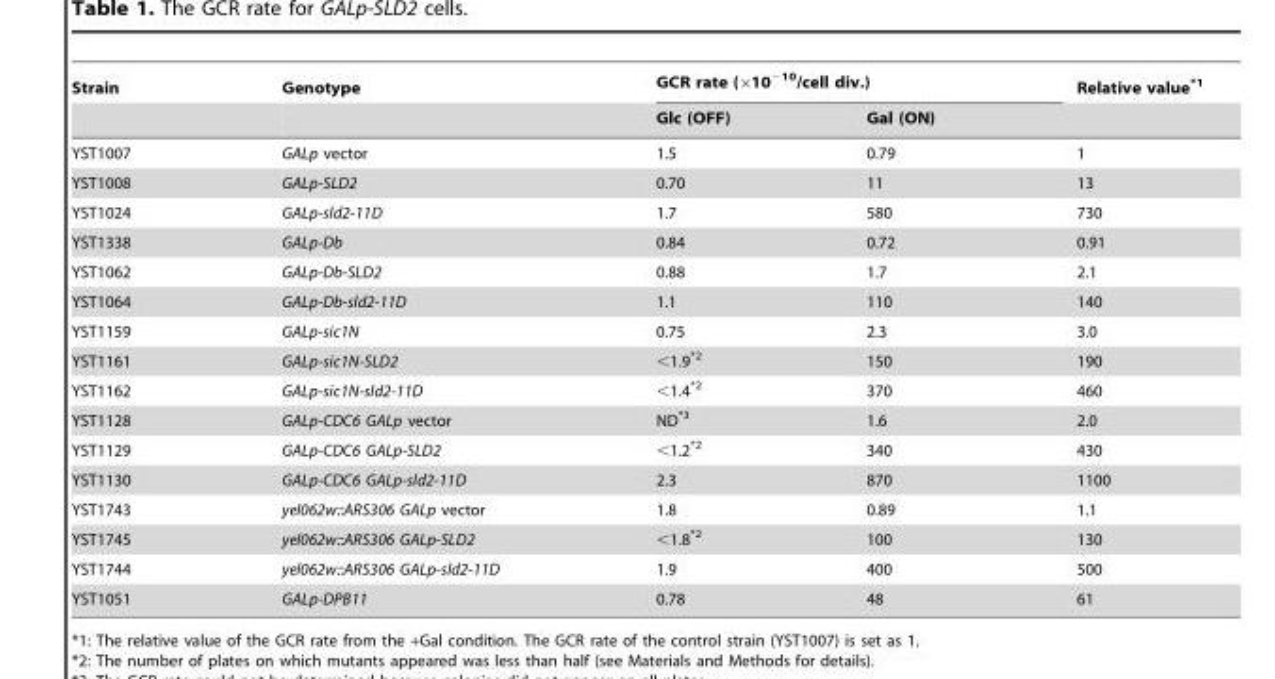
<table><thead><tr><td rowspan="2">Strain</td><td rowspan="2">Genotype</td><td colspan="2">GCR rate (×10<sup>−10</sup>/cell div.)</td><td rowspan="2">Relative value*1</td></tr><tr><td>Glc (OFF)</td><td>Gal (ON)</td></tr></thead><tbody><tr><td>YST1007</td><td>GALp vector</td><td>1.5</td><td>0.79</td><td>1</td></tr><tr><td>YST1008</td><td>GALp-SLD2</td><td>0.70</td><td>11</td><td>13</td></tr><tr><td>YST1024</td><td>GALp-sld2-11D</td><td>1.7</td><td>580</td><td>730</td></tr><tr><td>YST1338</td><td>GALp-Db</td><td>0.84</td><td>0.72</td><td>0.91</td></tr><tr><td>YST1062</td><td>GALp-Db-SLD2</td><td>0.88</td><td>1.7</td><td>2.1</td></tr><tr><td>YST1064</td><td>GALp-Db-sld2-11D</td><td>1.1</td><td>110</td><td>140</td></tr><tr><td>YST1159</td><td>GALp-sic1N</td><td>0.75</td><td>2.3</td><td>3.0</td></tr><tr><td>YST1161</td><td>GALp-sic1N-SLD2</td><td>&lt;1.9*2</td><td>150</td><td>190</td></tr><tr><td>YST1162</td><td>GALp-sic1N-sld2-11D</td><td>&lt;1.4*2</td><td>370</td><td>460</td></tr><tr><td>YST1128</td><td>GALp-CDC6 GALp vector</td><td>ND*3</td><td>1.6</td><td>2.0</td></tr><tr><td>YST1129</td><td>GALp-CDC6 GALp-SLD2</td><td>&lt;1.2*2</td><td>340</td><td>430</td></tr><tr><td>YST1130</td><td>GALp-CDC6 GALp-sld2-11D</td><td>2.3</td><td>870</td><td>1100</td></tr><tr><td>YST1743</td><td>yel062w::ARS306 GALp vector</td><td>1.8</td><td>0.89</td><td>1.1</td></tr><tr><td>YST1745</td><td>yel062w::ARS306 GALp-SLD2</td><td>&lt;1.8*2</td><td>100</td><td>130</td></tr><tr><td>YST1744</td><td>yel062w::ARS306 GALp-sld2-11D</td><td>1.9</td><td>400</td><td>500</td></tr><tr><td>YST1051</td><td>GALp-DPB11</td><td>0.78</td><td>48</td><td>61</td></tr></tbody></table>